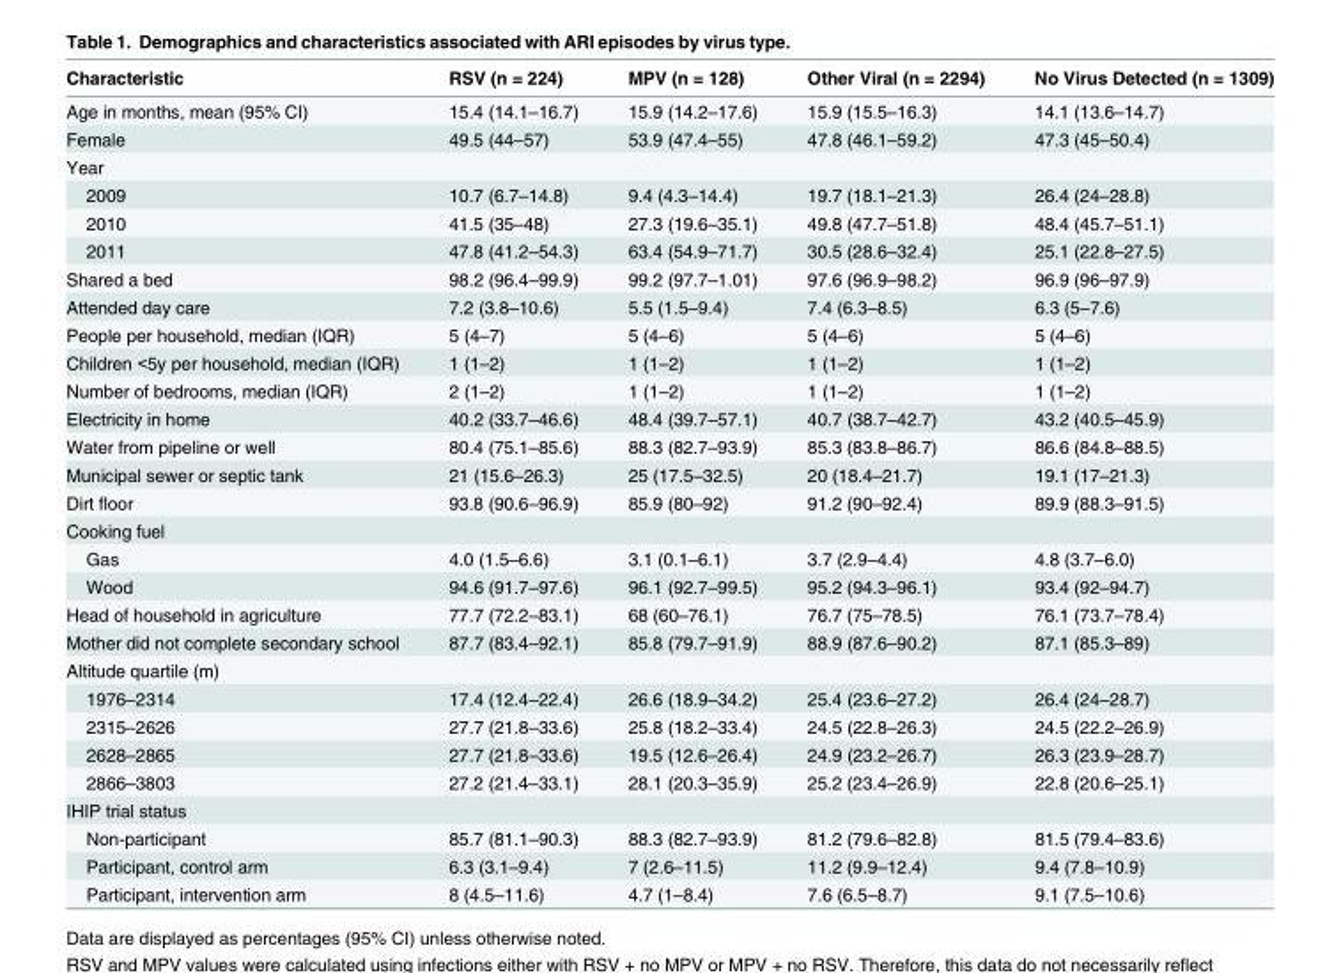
<table><thead><tr><td>Characteristic</td><td>RSV (n = 224)</td><td>MPV (n = 128)</td><td>Other Viral (n = 2294)</td><td>No Virus Detected (n = 1309)</td></tr></thead><tbody><tr><td>Age in months, mean (95% CI)</td><td>15.4 (14.1–16.7)</td><td>15.9 (14.2–17.6)</td><td>15.9 (15.5–16.3)</td><td>14.1 (13.6–14.7)</td></tr><tr><td>Female</td><td>49.5 (44–57)</td><td>53.9 (47.4–55)</td><td>47.8 (46.1–59.2)</td><td>47.3 (45–50.4)</td></tr><tr><td colspan="5">Year</td></tr><tr><td>2009</td><td>10.7 (6.7–14.8)</td><td>9.4 (4.3–14.4)</td><td>19.7 (18.1–21.3)</td><td>26.4 (24–28.8)</td></tr><tr><td>2010</td><td>41.5 (35–48)</td><td>27.3 (19.6–35.1)</td><td>49.8 (47.7–51.8)</td><td>48.4 (45.7–51.1)</td></tr><tr><td>2011</td><td>47.8 (41.2–54.3)</td><td>63.4 (54.9–71.7)</td><td>30.5 (28.6–32.4)</td><td>25.1 (22.8–27.5)</td></tr><tr><td>Shared a bed</td><td>98.2 (96.4–99.9)</td><td>99.2 (97.7–1.01)</td><td>97.6 (96.9–98.2)</td><td>96.9 (96–97.9)</td></tr><tr><td>Attended day care</td><td>7.2 (3.8–10.6)</td><td>5.5 (1.5–9.4)</td><td>7.4 (6.3–8.5)</td><td>6.3 (5–7.6)</td></tr><tr><td>People per household, median (IQR)</td><td>5 (4–7)</td><td>5 (4–6)</td><td>5 (4–6)</td><td>5 (4–6)</td></tr><tr><td>Children &lt;5y per household, median (IQR)</td><td>1 (1–2)</td><td>1 (1–2)</td><td>1 (1–2)</td><td>1 (1–2)</td></tr><tr><td>Number of bedrooms, median (IQR)</td><td>2 (1–2)</td><td>1 (1–2)</td><td>1 (1–2)</td><td>1 (1–2)</td></tr><tr><td>Electricity in home</td><td>40.2 (33.7–46.6)</td><td>48.4 (39.7–57.1)</td><td>40.7 (38.7–42.7)</td><td>43.2 (40.5–45.9)</td></tr><tr><td>Water from pipeline or well</td><td>80.4 (75.1–85.6)</td><td>88.3 (82.7–93.9)</td><td>85.3 (83.8–86.7)</td><td>86.6 (84.8–88.5)</td></tr><tr><td>Municipal sewer or septic tank</td><td>21 (15.6–26.3)</td><td>25 (17.5–32.5)</td><td>20 (18.4–21.7)</td><td>19.1 (17–21.3)</td></tr><tr><td>Dirt floor</td><td>93.8 (90.6–96.9)</td><td>85.9 (80–92)</td><td>91.2 (90–92.4)</td><td>89.9 (88.3–91.5)</td></tr><tr><td colspan="5">Cooking fuel</td></tr><tr><td>Gas</td><td>4.0 (1.5–6.6)</td><td>3.1 (0.1–6.1)</td><td>3.7 (2.9–4.4)</td><td>4.8 (3.7–6.0)</td></tr><tr><td>Wood</td><td>94.6 (91.7–97.6)</td><td>96.1 (92.7–99.5)</td><td>95.2 (94.3–96.1)</td><td>93.4 (92–94.7)</td></tr><tr><td>Head of household in agriculture</td><td>77.7 (72.2–83.1)</td><td>68 (60–76.1)</td><td>76.7 (75–78.5)</td><td>76.1 (73.7–78.4)</td></tr><tr><td>Mother did not complete secondary school</td><td>87.7 (83.4–92.1)</td><td>85.8 (79.7–91.9)</td><td>88.9 (87.6–90.2)</td><td>87.1 (85.3–89)</td></tr><tr><td colspan="5">Altitude quartile (m)</td></tr><tr><td>1976–2314</td><td>17.4 (12.4–22.4)</td><td>26.6 (18.9–34.2)</td><td>25.4 (23.6–27.2)</td><td>26.4 (24–28.7)</td></tr><tr><td>2315–2626</td><td>27.7 (21.8–33.6)</td><td>25.8 (18.2–33.4)</td><td>24.5 (22.8–26.3)</td><td>24.5 (22.2–26.9)</td></tr><tr><td>2628–2865</td><td>27.7 (21.8–33.6)</td><td>19.5 (12.6–26.4)</td><td>24.9 (23.2–26.7)</td><td>26.3 (23.9–28.7)</td></tr><tr><td>2866–3803</td><td>27.2 (21.4–33.1)</td><td>28.1 (20.3–35.9)</td><td>25.2 (23.4–26.9)</td><td>22.8 (20.6–25.1)</td></tr><tr><td colspan="5">IHIP trial status</td></tr><tr><td>Non-participant</td><td>85.7 (81.1–90.3)</td><td>88.3 (82.7–93.9)</td><td>81.2 (79.6–82.8)</td><td>81.5 (79.4–83.6)</td></tr><tr><td>Participant, control arm</td><td>6.3 (3.1–9.4)</td><td>7 (2.6–11.5)</td><td>11.2 (9.9–12.4)</td><td>9.4 (7.8–10.9)</td></tr><tr><td>Participant, intervention arm</td><td>8 (4.5–11.6)</td><td>4.7 (1–8.4)</td><td>7.6 (6.5–8.7)</td><td>9.1 (7.5–10.6)</td></tr></tbody></table>